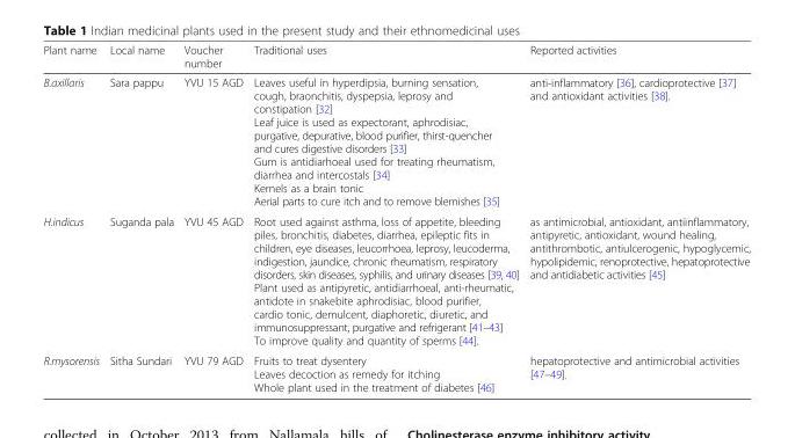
<table><thead><tr><td>Plant name</td><td>Local name</td><td>Voucher number</td><td>Traditional uses</td><td>Reported activities</td></tr></thead><tbody><tr><td>B.axillaris</td><td>Sara pappu</td><td>YVU 15 AGD</td><td>Leaves useful in hyperdipsia, burning sensation, cough, braonchitis, dyspepsia, leprosy and constipation [32] Leaf juice is used as expectorant, aphrodisiac, purgative, depurative, blood purifier, thirst-quencher and cures digestive disorders [33] Gum is antidiarhoeal used for treating rheumatism, diarrhea and intercostals [34] Kernels as a brain tonic Aerial parts to cure itch and to remove blemishes [35]</td><td>anti-inflammatory [36], cardioprotective [37] and antioxidant activities [38].</td></tr><tr><td>H.indicus</td><td>Suganda pala</td><td>YVU 45 AGD</td><td>Root used against asthma, loss of appetite, bleeding piles, bronchitis, diabetes, diarrhea, epileptic fits in children, eye diseases, leucorrhoea, leprosy, leucoderma, indigestion, jaundice, chronic rheumatism, respiratory disorders, skin diseases, syphilis, and urinary diseases [39, 40] Plant used as antipyretic, antidiarrhoeal, anti-rheumatic, antidote in snakebite aphrodisiac, blood purifier, cardio tonic, demulcent, diaphoretic, diuretic, and immunosuppressant, purgative and refrigerant [41–43] To improve quality and quantity of sperms [44].</td><td>as antimicrobial, antioxidant, antiinflammatory, antipyretic, antioxidant, wound healing, antithrombotic, antiulcerogenic, hypoglycemic, hypolipidemic, renoprotective, hepatoprotective and antidiabetic activities [45]</td></tr><tr><td>R.mysorensis</td><td>Sitha Sundari</td><td>YVU 79 AGD</td><td>Fruits to treat dysentery Leaves decoction as remedy for itching Whole plant used in the treatment of diabetes [46]</td><td>hepatoprotective and antimicrobial activities [47–49].</td></tr></tbody></table>